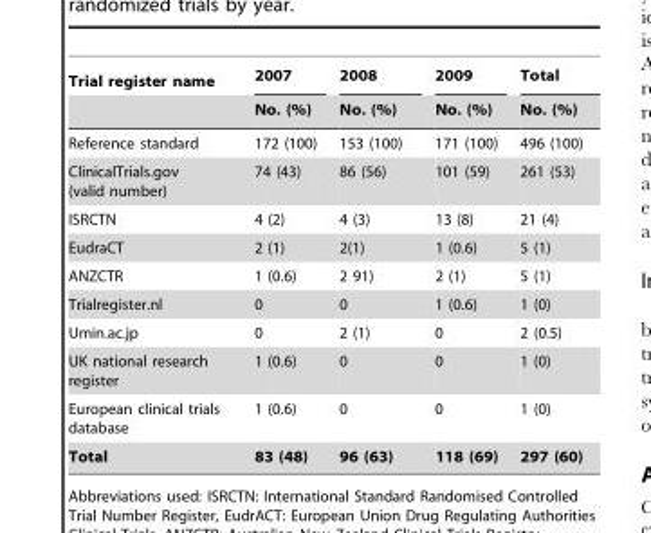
<table><thead><tr><td rowspan="2">Trial register name</td><td rowspan="2">2007 No. (%)</td><td rowspan="2">2008 No. (%)</td><td rowspan="2">2009 No. (%)</td><td rowspan="2">Total No. (%)</td></tr><tr></tr></thead><tbody><tr><td>Reference standard</td><td>172 (100)</td><td>153 (100)</td><td>171 (100)</td><td>496 (100)</td></tr><tr><td>ClinicalTrials.gov (valid number)</td><td>74 (43)</td><td>86 (56)</td><td>101 (59)</td><td>261 (53)</td></tr><tr><td>ISRCTN</td><td>4 (2)</td><td>4 (3)</td><td>13 (8)</td><td>21 (4)</td></tr><tr><td>EudraCT</td><td>2 (1)</td><td>2(1)</td><td>1 (0.6)</td><td>5 (1)</td></tr><tr><td>ANZCTR</td><td>1 (0.6)</td><td>2 91)</td><td>2 (1)</td><td>5 (1)</td></tr><tr><td>Trialregister.nl</td><td>0</td><td>0</td><td>1 (0.6)</td><td>1 (0)</td></tr><tr><td>Umin.ac.jp</td><td>0</td><td>2 (1)</td><td>0</td><td>2 (0.5)</td></tr><tr><td>UK national research register</td><td>1 (0.6)</td><td>0</td><td>0</td><td>1 (0)</td></tr><tr><td>European clinical trials database</td><td>1 (0.6)</td><td>0</td><td>0</td><td>1 (0)</td></tr><tr><td>Total</td><td>83 (48)</td><td>96 (63)</td><td>118 (69)</td><td>297 (60)</td></tr></tbody></table>